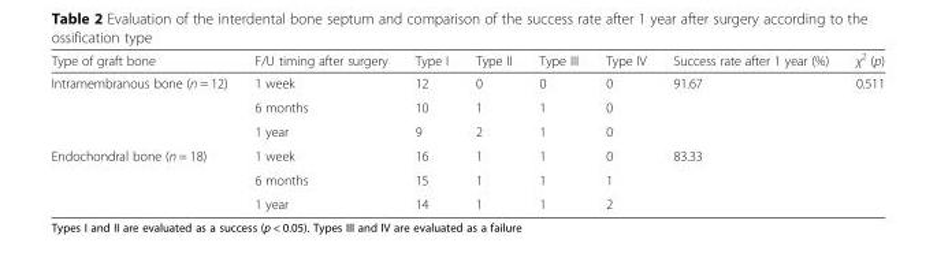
<table><thead><tr><td>Type of graft bone</td><td>F/U timing after surgery</td><td>Type I</td><td>Type II</td><td>Type III</td><td>Type IV</td><td>Success rate after 1 year (%)</td><td>χ<sup>2</sup> (p)</td></tr></thead><tbody><tr><td rowspan="3">Intramembranous bone (n = 12)</td><td>1 week</td><td>12</td><td>0</td><td>0</td><td>0</td><td rowspan="3">91.67</td><td rowspan="6">0.511</td></tr><tr><td>6 months</td><td>10</td><td>1</td><td>1</td><td>0</td></tr><tr><td>1 year</td><td>9</td><td>2</td><td>1</td><td>0</td></tr><tr><td rowspan="3">Endochondral bone (n = 18)</td><td>1 week</td><td>16</td><td>1</td><td>1</td><td>0</td><td rowspan="3">83.33</td></tr><tr><td>6 months</td><td>15</td><td>1</td><td>1</td><td>1</td></tr><tr><td>1 year</td><td>14</td><td>1</td><td>1</td><td>2</td></tr></tbody></table>